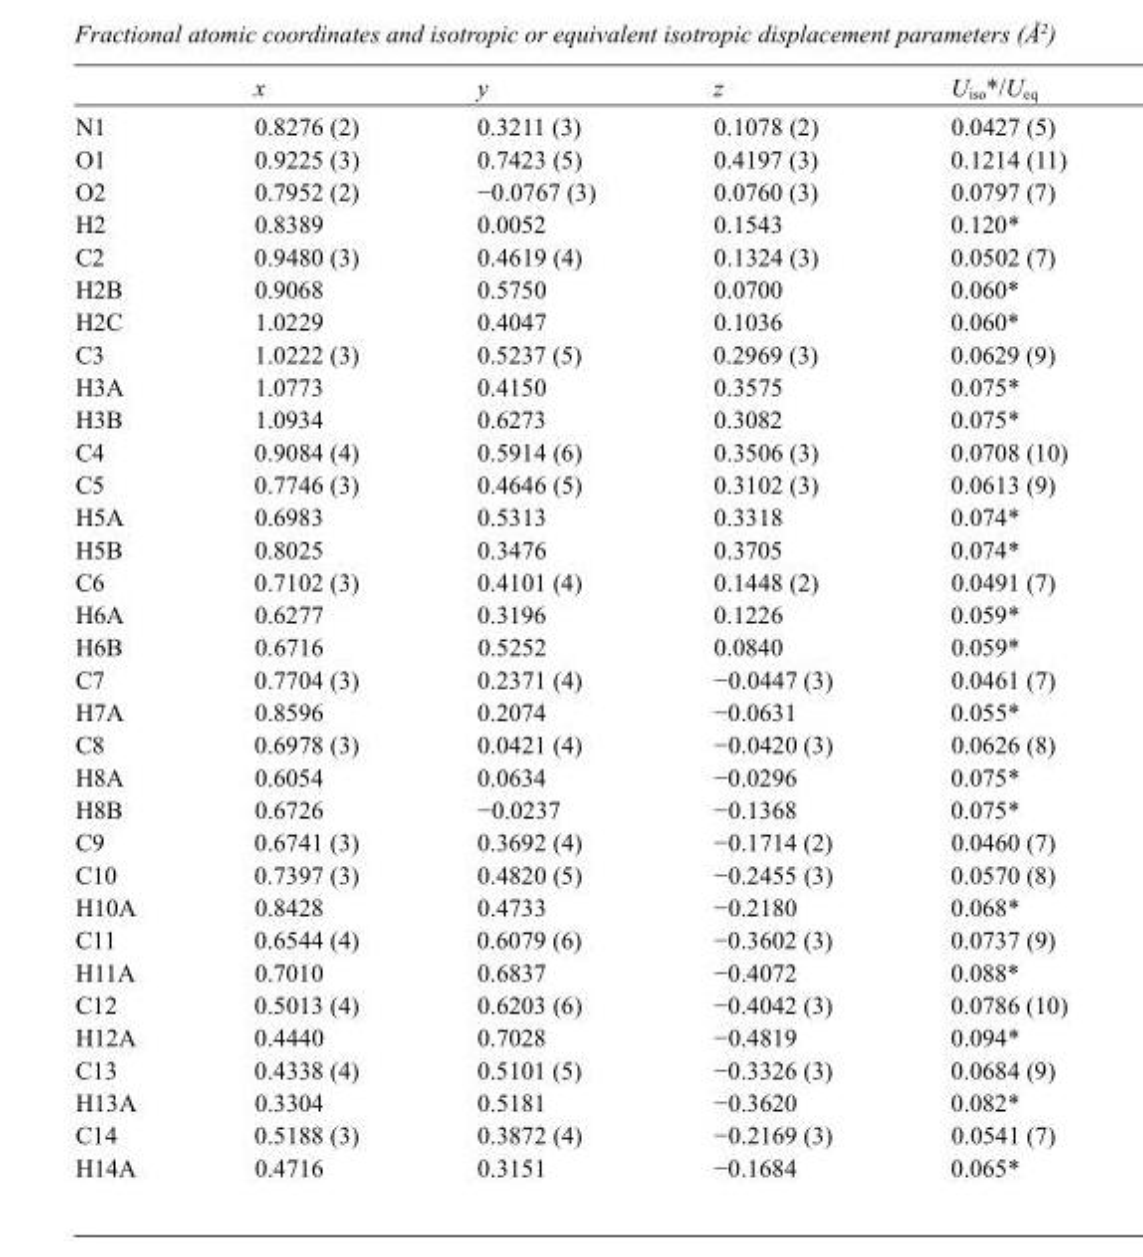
<table><thead><tr><td></td><td>x</td><td>y</td><td>z</td><td>U<sub>iso</sub>*/U<sub>eq</sub></td></tr></thead><tbody><tr><td>N1</td><td>0.8276 (2)</td><td>0.3211 (3)</td><td>0.1078 (2)</td><td>0.0427 (5)</td></tr><tr><td>O1</td><td>0.9225 (3)</td><td>0.7423 (5)</td><td>0.4197 (3)</td><td>0.1214 (11)</td></tr><tr><td>O2</td><td>0.7952 (2)</td><td>−0.0767 (3)</td><td>0.0760 (3)</td><td>0.0797 (7)</td></tr><tr><td>H2</td><td>0.8389</td><td>0.0052</td><td>0.1543</td><td>0.120*</td></tr><tr><td>C2</td><td>0.9480 (3)</td><td>0.4619 (4)</td><td>0.1324 (3)</td><td>0.0502 (7)</td></tr><tr><td>H2B</td><td>0.9068</td><td>0.5750</td><td>0.0700</td><td>0.060*</td></tr><tr><td>H2C</td><td>1.0229</td><td>0.4047</td><td>0.1036</td><td>0.060*</td></tr><tr><td>C3</td><td>1.0222 (3)</td><td>0.5237 (5)</td><td>0.2969 (3)</td><td>0.0629 (9)</td></tr><tr><td>H3A</td><td>1.0773</td><td>0.4150</td><td>0.3575</td><td>0.075*</td></tr><tr><td>H3B</td><td>1.0934</td><td>0.6273</td><td>0.3082</td><td>0.075*</td></tr><tr><td>C4</td><td>0.9084 (4)</td><td>0.5914 (6)</td><td>0.3506 (3)</td><td>0.0708 (10)</td></tr><tr><td>C5</td><td>0.7746 (3)</td><td>0.4646 (5)</td><td>0.3102 (3)</td><td>0.0613 (9)</td></tr><tr><td>H5A</td><td>0.6983</td><td>0.5313</td><td>0.3318</td><td>0.074*</td></tr><tr><td>H5B</td><td>0.8025</td><td>0.3476</td><td>0.3705</td><td>0.074*</td></tr><tr><td>C6</td><td>0.7102 (3)</td><td>0.4101 (4)</td><td>0.1448 (2)</td><td>0.0491 (7)</td></tr><tr><td>H6A</td><td>0.6277</td><td>0.3196</td><td>0.1226</td><td>0.059*</td></tr><tr><td>H6B</td><td>0.6716</td><td>0.5252</td><td>0.0840</td><td>0.059*</td></tr><tr><td>C7</td><td>0.7704 (3)</td><td>0.2371 (4)</td><td>−0.0447 (3)</td><td>0.0461 (7)</td></tr><tr><td>H7A</td><td>0.8596</td><td>0.2074</td><td>−0.0631</td><td>0.055*</td></tr><tr><td>C8</td><td>0.6978 (3)</td><td>0.0421 (4)</td><td>−0.0420 (3)</td><td>0.0626 (8)</td></tr><tr><td>H8A</td><td>0.6054</td><td>0.0634</td><td>−0.0296</td><td>0.075*</td></tr><tr><td>H8B</td><td>0.6726</td><td>−0.0237</td><td>−0.1368</td><td>0.075*</td></tr><tr><td>C9</td><td>0.6741 (3)</td><td>0.3692 (4)</td><td>−0.1714 (2)</td><td>0.0460 (7)</td></tr><tr><td>C10</td><td>0.7397 (3)</td><td>0.4820 (5)</td><td>−0.2455 (3)</td><td>0.0570 (8)</td></tr><tr><td>H10A</td><td>0.8428</td><td>0.4733</td><td>−0.2180</td><td>0.068*</td></tr><tr><td>C11</td><td>0.6544 (4)</td><td>0.6079 (6)</td><td>−0.3602 (3)</td><td>0.0737 (9)</td></tr><tr><td>H11A</td><td>0.7010</td><td>0.6837</td><td>−0.4072</td><td>0.088*</td></tr><tr><td>C12</td><td>0.5013 (4)</td><td>0.6203 (6)</td><td>−0.4042 (3)</td><td>0.0786 (10)</td></tr><tr><td>H12A</td><td>0.4440</td><td>0.7028</td><td>−0.4819</td><td>0.094*</td></tr><tr><td>C13</td><td>0.4338 (4)</td><td>0.5101 (5)</td><td>−0.3326 (3)</td><td>0.0684 (9)</td></tr><tr><td>H13A</td><td>0.3304</td><td>0.5181</td><td>−0.3620</td><td>0.082*</td></tr><tr><td>C14</td><td>0.5188 (3)</td><td>0.3872 (4)</td><td>−0.2169 (3)</td><td>0.0541 (7)</td></tr><tr><td>H14A</td><td>0.4716</td><td>0.3151</td><td>−0.1684</td><td>0.065*</td></tr></tbody></table>